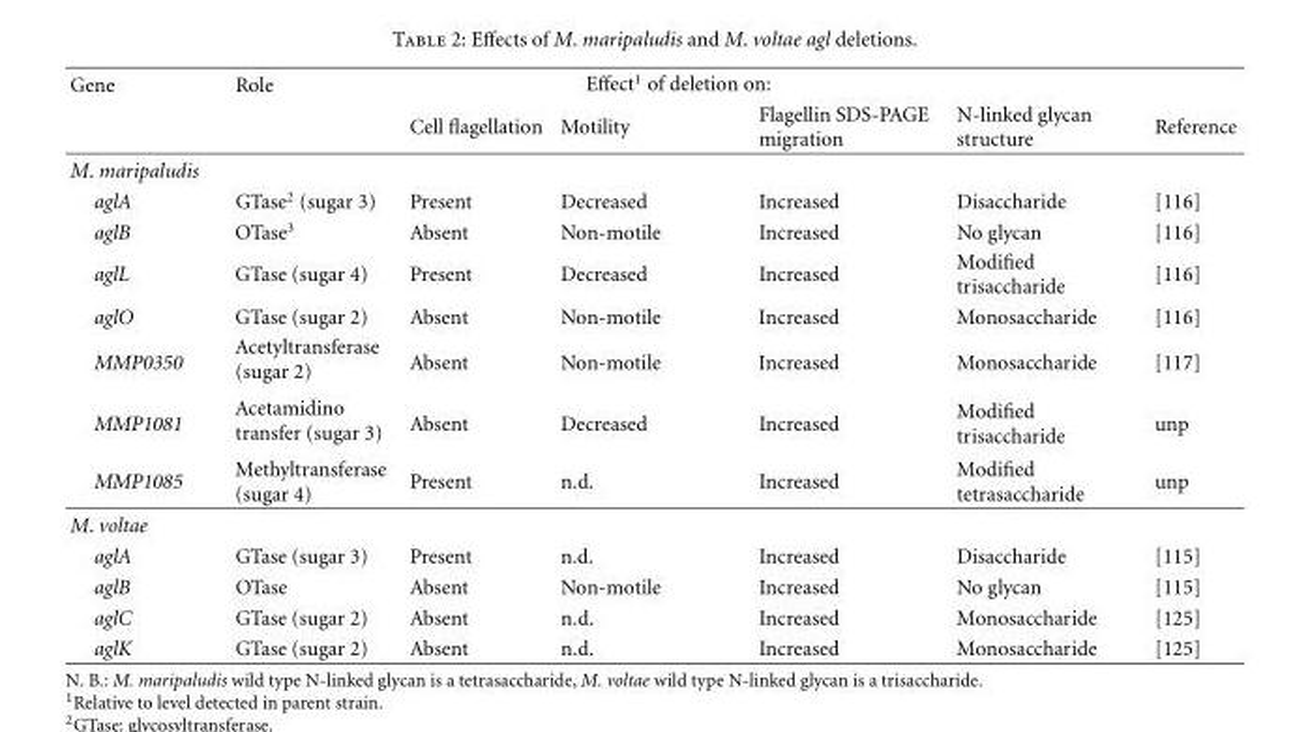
<table><thead><tr><td rowspan="2">Gene</td><td rowspan="2">Role</td><td colspan="3">Effect<sup>1</sup> of deletion on:</td><td rowspan="2">N-linked glycan structure</td><td rowspan="2">Reference</td></tr><tr><td>Cell flagellation</td><td>Motility</td><td>Flagellin SDS-PAGE migration</td></tr></thead><tbody><tr><td colspan="7">M. maripaludis</td></tr><tr><td>aglA</td><td>GTase<sup>2</sup> (sugar 3)</td><td>Present</td><td>Decreased</td><td>Increased</td><td>Disaccharide</td><td>[116]</td></tr><tr><td>aglB</td><td>OTase<sup>3</sup></td><td>Absent</td><td>Non-motile</td><td>Increased</td><td>No glycan</td><td>[116]</td></tr><tr><td>aglL</td><td>GTase (sugar 4)</td><td>Present</td><td>Decreased</td><td>Increased</td><td>Modified trisaccharide</td><td>[116]</td></tr><tr><td>aglO</td><td>GTase (sugar 2)</td><td>Absent</td><td>Non-motile</td><td>Increased</td><td>Monosaccharide</td><td>[116]</td></tr><tr><td>MMP0350</td><td>Acetyltransferase (sugar 2)</td><td>Absent</td><td>Non-motile</td><td>Increased</td><td>Monosaccharide</td><td>[117]</td></tr><tr><td>MMP1081</td><td>Acetamidino transfer (sugar 3)</td><td>Absent</td><td>Decreased</td><td>Increased</td><td>Modified trisaccharide</td><td>unp</td></tr><tr><td>MMP1085</td><td>Methyltransferase (sugar 4)</td><td>Present</td><td>n.d.</td><td>Increased</td><td>Modified tetrasaccharide</td><td>unp</td></tr><tr><td colspan="7">M. voltae</td></tr><tr><td>aglA</td><td>GTase (sugar 3)</td><td>Present</td><td>n.d.</td><td>Increased</td><td>Disaccharide</td><td>[115]</td></tr><tr><td>aglB</td><td>OTase</td><td>Absent</td><td>Non-motile</td><td>Increased</td><td>No glycan</td><td>[115]</td></tr><tr><td>aglC</td><td>GTase (sugar 2)</td><td>Absent</td><td>n.d.</td><td>Increased</td><td>Monosaccharide</td><td>[125]</td></tr><tr><td>aglK</td><td>GTase (sugar 2)</td><td>Absent</td><td>n.d.</td><td>Increased</td><td>Monosaccharide</td><td>[125]</td></tr></tbody></table>